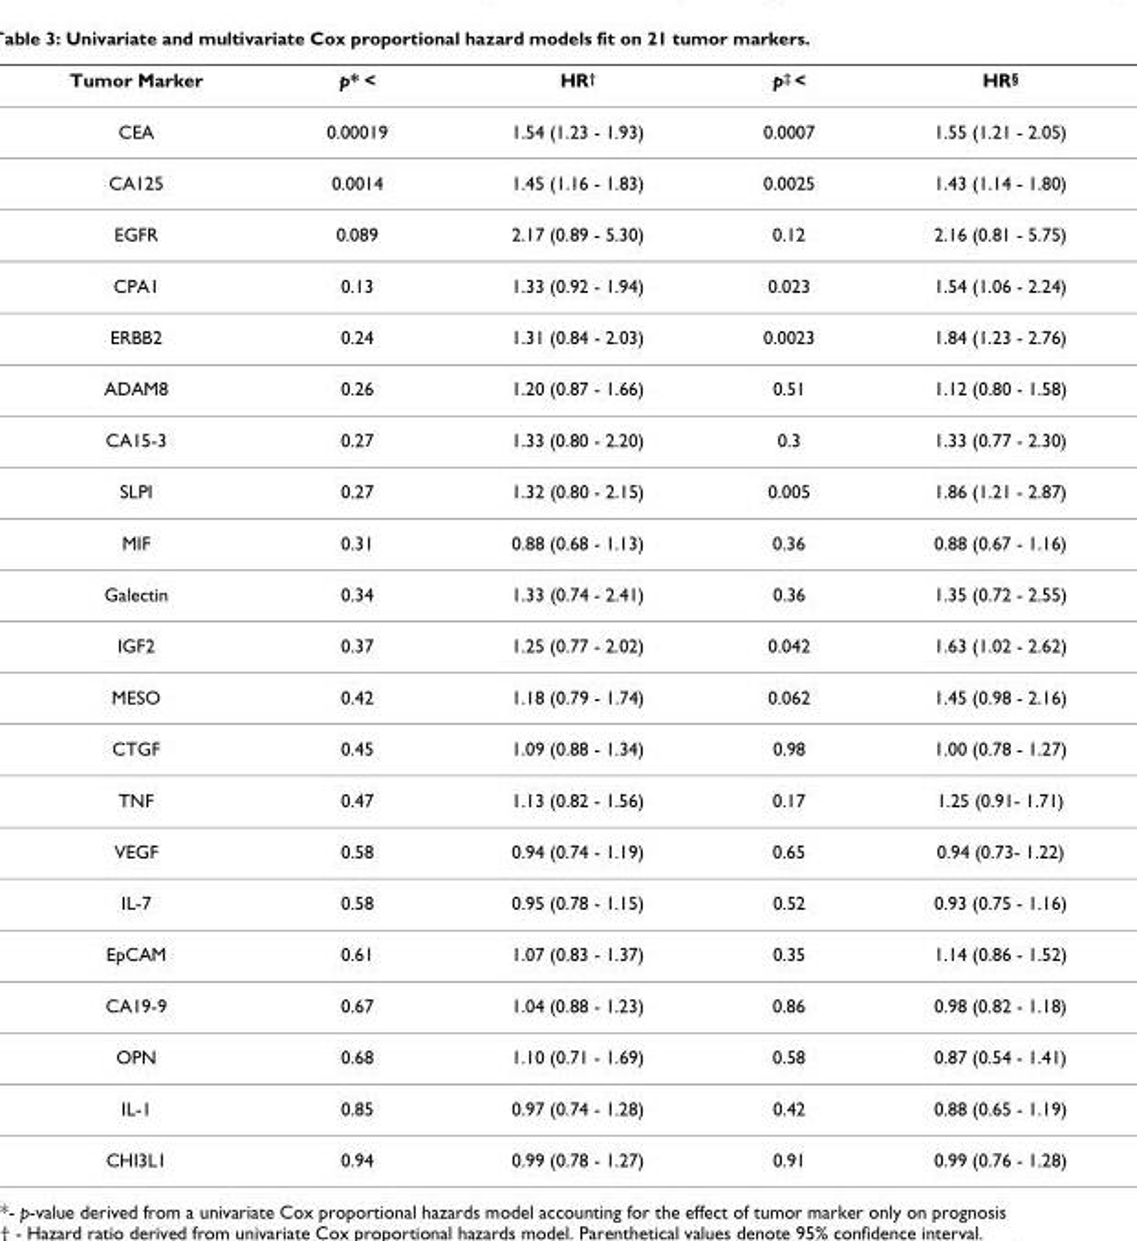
<table><thead><tr><td>Tumor Marker</td><td>p* &lt;</td><td>HR<sup>†</sup></td><td>p<sup>‡</sup> &lt;</td><td>HR<sup>§</sup></td></tr></thead><tbody><tr><td>CEA</td><td>0.00019</td><td>1.54 (1.23 - 1.93)</td><td>0.0007</td><td>1.55 (1.21 - 2.05)</td></tr><tr><td>CA125</td><td>0.0014</td><td>1.45 (1.16 - 1.83)</td><td>0.0025</td><td>1.43 (1.14 - 1.80)</td></tr><tr><td>EGFR</td><td>0.089</td><td>2.17 (0.89 - 5.30)</td><td>0.12</td><td>2.16 (0.81 - 5.75)</td></tr><tr><td>CPA1</td><td>0.13</td><td>1.33 (0.92 - 1.94)</td><td>0.023</td><td>1.54 (1.06 - 2.24)</td></tr><tr><td>ERBB2</td><td>0.24</td><td>1.31 (0.84 - 2.03)</td><td>0.0023</td><td>1.84 (1.23 - 2.76)</td></tr><tr><td>ADAM8</td><td>0.26</td><td>1.20 (0.87 - 1.66)</td><td>0.51</td><td>1.12 (0.80 - 1.58)</td></tr><tr><td>CA15-3</td><td>0.27</td><td>1.33 (0.80 - 2.20)</td><td>0.3</td><td>1.33 (0.77 - 2.30)</td></tr><tr><td>SLPI</td><td>0.27</td><td>1.32 (0.80 - 2.15)</td><td>0.005</td><td>1.86 (1.21 - 2.87)</td></tr><tr><td>MIF</td><td>0.31</td><td>0.88 (0.68 - 1.13)</td><td>0.36</td><td>0.88 (0.67 - 1.16)</td></tr><tr><td>Galectin</td><td>0.34</td><td>1.33 (0.74 - 2.41)</td><td>0.36</td><td>1.35 (0.72 - 2.55)</td></tr><tr><td>IGF2</td><td>0.37</td><td>1.25 (0.77 - 2.02)</td><td>0.042</td><td>1.63 (1.02 - 2.62)</td></tr><tr><td>MESO</td><td>0.42</td><td>1.18 (0.79 - 1.74)</td><td>0.062</td><td>1.45 (0.98 - 2.16)</td></tr><tr><td>CTGF</td><td>0.45</td><td>1.09 (0.88 - 1.34)</td><td>0.98</td><td>1.00 (0.78 - 1.27)</td></tr><tr><td>TNF</td><td>0.47</td><td>1.13 (0.82 - 1.56)</td><td>0.17</td><td>1.25 (0.91- 1.71)</td></tr><tr><td>VEGF</td><td>0.58</td><td>0.94 (0.74 - 1.19)</td><td>0.65</td><td>0.94 (0.73- 1.22)</td></tr><tr><td>IL-7</td><td>0.58</td><td>0.95 (0.78 - 1.15)</td><td>0.52</td><td>0.93 (0.75 - 1.16)</td></tr><tr><td>EpCAM</td><td>0.61</td><td>1.07 (0.83 - 1.37)</td><td>0.35</td><td>1.14 (0.86 - 1.52)</td></tr><tr><td>CA19-9</td><td>0.67</td><td>1.04 (0.88 - 1.23)</td><td>0.86</td><td>0.98 (0.82 - 1.18)</td></tr><tr><td>OPN</td><td>0.68</td><td>1.10 (0.71 - 1.69)</td><td>0.58</td><td>0.87 (0.54 - 1.41)</td></tr><tr><td>IL-1</td><td>0.85</td><td>0.97 (0.74 - 1.28)</td><td>0.42</td><td>0.88 (0.65 - 1.19)</td></tr><tr><td>CHI3L1</td><td>0.94</td><td>0.99 (0.78 - 1.27)</td><td>0.91</td><td>0.99 (0.76 - 1.28)</td></tr></tbody></table>